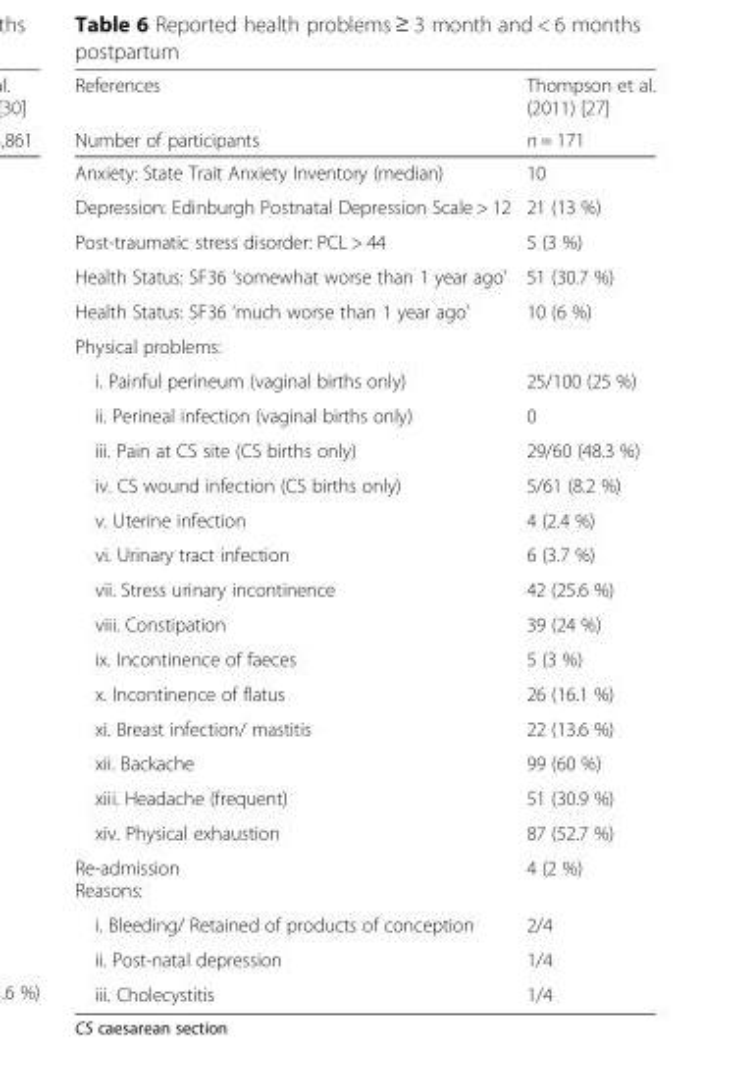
<table><thead><tr><td rowspan="2">References Number of participants</td><td rowspan="2">Thompson et al. (2011) [27] n = 171</td></tr><tr></tr></thead><tbody><tr><td>Anxiety: State Trait Anxiety Inventory (median)</td><td>10</td></tr><tr><td>Depression: Edinburgh Postnatal Depression Scale &gt; 12</td><td>21 (13 %)</td></tr><tr><td>Post-traumatic stress disorder: PCL &gt; 44</td><td>5 (3 %)</td></tr><tr><td>Health Status: SF36 ‘somewhat worse than 1 year ago’</td><td>51 (30.7 %)</td></tr><tr><td>Health Status: SF36 ‘much worse than 1 year ago’</td><td>10 (6 %)</td></tr><tr><td colspan="2">Physical problems:</td></tr><tr><td>i. Painful perineum (vaginal births only)</td><td>25/100 (25 %)</td></tr><tr><td>ii. Perineal infection (vaginal births only)</td><td>0</td></tr><tr><td>iii. Pain at CS site (CS births only)</td><td>29/60 (48.3 %)</td></tr><tr><td>iv. CS wound infection (CS births only)</td><td>5/61 (8.2 %)</td></tr><tr><td>v. Uterine infection</td><td>4 (2.4 %)</td></tr><tr><td>vi. Urinary tract infection</td><td>6 (3.7 %)</td></tr><tr><td>vii. Stress urinary incontinence</td><td>42 (25.6 %)</td></tr><tr><td>viii. Constipation</td><td>39 (24 %)</td></tr><tr><td>ix. Incontinence of faeces</td><td>5 (3 %)</td></tr><tr><td>x. Incontinence of flatus</td><td>26 (16.1 %)</td></tr><tr><td>xi. Breast infection/ mastitis</td><td>22 (13.6 %)</td></tr><tr><td>xii. Backache</td><td>99 (60 %)</td></tr><tr><td>xiii. Headache (frequent)</td><td>51 (30.9 %)</td></tr><tr><td>xiv. Physical exhaustion</td><td>87 (52.7 %)</td></tr><tr><td>Re-admission Reasons:</td><td>4 (2 %)</td></tr><tr><td>i. Bleeding/ Retained of products of conception</td><td>2/4</td></tr><tr><td>ii. Post-natal depression</td><td>1/4</td></tr><tr><td>iii. Cholecystitis</td><td>1/4</td></tr></tbody></table>